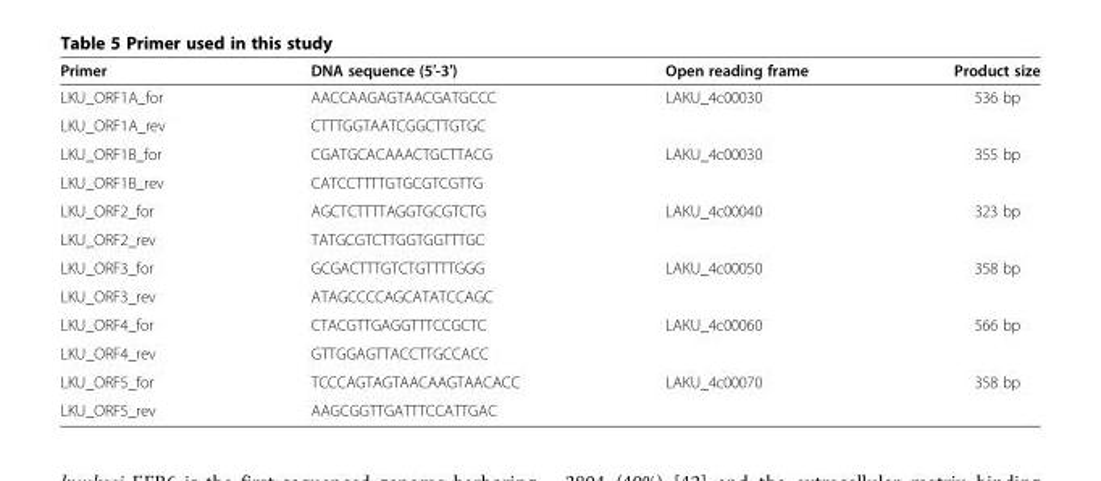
<table><thead><tr><td>Primer</td><td>DNA sequence (5′-3′)</td><td>Open reading frame</td><td>Product size</td></tr></thead><tbody><tr><td>LKU_ORF1A_for</td><td>AACCAAGAGTAACGATGCCC</td><td>LAKU_4c00030</td><td>536 bp</td></tr><tr><td>LKU_ORF1A_rev</td><td>CTTTGGTAATCGGCTTGTGC</td><td></td><td></td></tr><tr><td>LKU_ORF1B_for</td><td>CGATGCACAAACTGCTTACG</td><td>LAKU_4c00030</td><td>355 bp</td></tr><tr><td>LKU_ORF1B_rev</td><td>CATCCTTTTGTGCGTCGTTG</td><td></td><td></td></tr><tr><td>LKU_ORF2_for</td><td>AGCTCTTTTAGGTGCGTCTG</td><td>LAKU_4c00040</td><td>323 bp</td></tr><tr><td>LKU_ORF2_rev</td><td>TATGCGTCTTGGTGGTTTGC</td><td></td><td></td></tr><tr><td>LKU_ORF3_for</td><td>GCGACTTTGTCTGTTTTGGG</td><td>LAKU_4c00050</td><td>358 bp</td></tr><tr><td>LKU_ORF3_rev</td><td>ATAGCCCCAGCATATCCAGC</td><td></td><td></td></tr><tr><td>LKU_ORF4_for</td><td>CTACGTTGAGGTTTCCGCTC</td><td>LAKU_4c00060</td><td>566 bp</td></tr><tr><td>LKU_ORF4_rev</td><td>GTTGGAGTTACCTTGCCACC</td><td></td><td></td></tr><tr><td>LKU_ORF5_for</td><td>TCCCAGTAGTAACAAGTAACACC</td><td>LAKU_4c00070</td><td>358 bp</td></tr><tr><td>LKU_ORF5_rev</td><td>AAGCGGTTGATTTCCATTGAC</td><td></td><td></td></tr></tbody></table>